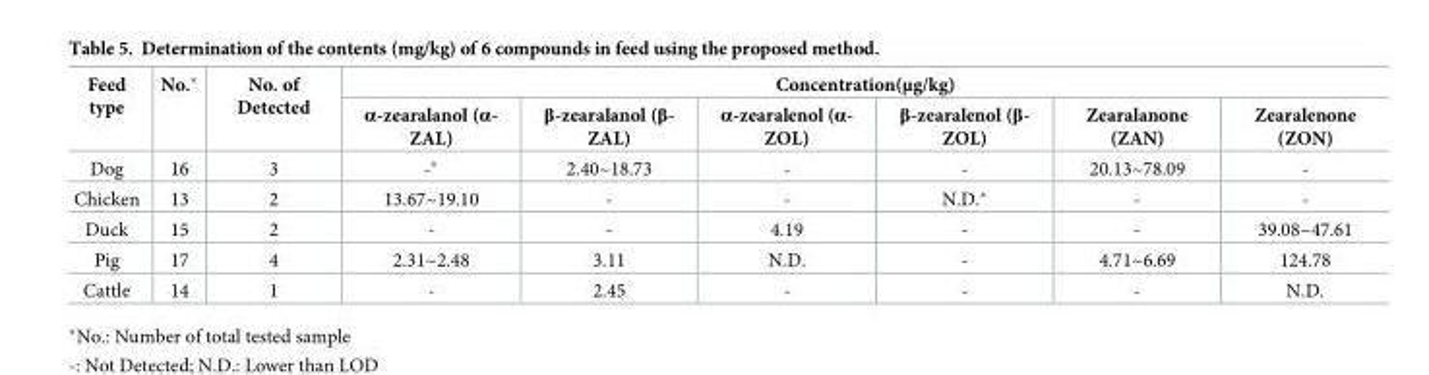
<table><thead><tr><td rowspan="2">Feed type</td><td rowspan="2">No.*</td><td rowspan="2">No. of Detected</td><td colspan="6">Concentration(μg/kg)</td></tr><tr><td>α-zearalanol (α- ZAL)</td><td>β-zearalanol (β- ZAL)</td><td>α-zearalenol (α- ZOL)</td><td>β-zearalenol (β- ZOL)</td><td>Zearalanone (ZAN)</td><td>Zearalenone (ZON)</td></tr></thead><tbody><tr><td>Dog</td><td>16</td><td>3</td><td>-*</td><td>2.40~18.73</td><td>-</td><td>-</td><td>20.13~78.09</td><td>-</td></tr><tr><td>Chicken</td><td>13</td><td>2</td><td>13.67~19.10</td><td>-</td><td>-</td><td>N.D.*</td><td>-</td><td>-</td></tr><tr><td>Duck</td><td>15</td><td>2</td><td>-</td><td>-</td><td>4.19</td><td>-</td><td>-</td><td>39.08~47.61</td></tr><tr><td>Pig</td><td>17</td><td>4</td><td>2.31~2.48</td><td>3.11</td><td>N.D.</td><td>-</td><td>4.71~6.69</td><td>124.78</td></tr><tr><td>Cattle</td><td>14</td><td>1</td><td>-</td><td>2.45</td><td>-</td><td>-</td><td>-</td><td>N.D.</td></tr></tbody></table>